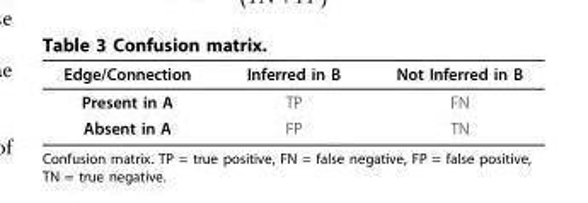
<table><thead><tr><td>Edge/Connection</td><td>Inferred in B</td><td>Not Inferred in B</td></tr></thead><tbody><tr><td>Present in A</td><td>TP</td><td>FN</td></tr><tr><td>Absent in A</td><td>FP</td><td>TN</td></tr></tbody></table>